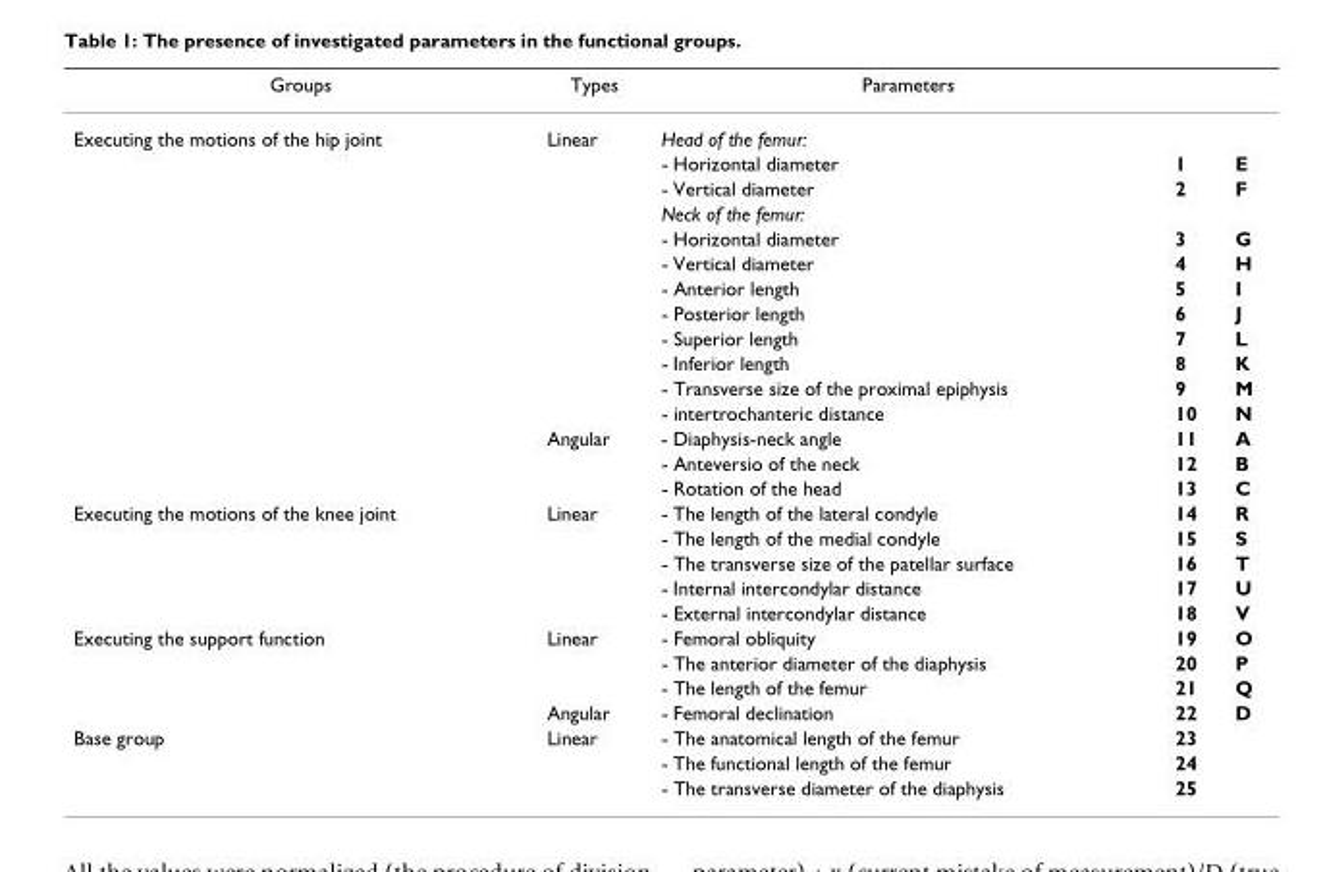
<table><thead><tr><td>Groups</td><td>Types</td><td>Parameters</td><td></td><td></td></tr></thead><tbody><tr><td rowspan="15">Executing the motions of the hip joint</td><td>Linear</td><td>Head of the femur:</td><td></td><td></td></tr><tr><td></td><td>- Horizontal diameter</td><td>1</td><td>E</td></tr><tr><td></td><td>- Vertical diameter</td><td>2</td><td>F</td></tr><tr><td></td><td>Neck of the femur:</td><td></td><td></td></tr><tr><td></td><td>- Horizontal diameter</td><td>3</td><td>G</td></tr><tr><td></td><td>- Vertical diameter</td><td>4</td><td>H</td></tr><tr><td></td><td>- Anterior length</td><td>5</td><td>I</td></tr><tr><td></td><td>- Posterior length</td><td>6</td><td>J</td></tr><tr><td></td><td>- Superior length</td><td>7</td><td>L</td></tr><tr><td></td><td>- Inferior length</td><td>8</td><td>K</td></tr><tr><td></td><td>- Transverse size of the proximal epiphysis</td><td>9</td><td>M</td></tr><tr><td></td><td>- intertrochanteric distance</td><td>10</td><td>N</td></tr><tr><td>Angular</td><td>- Diaphysis-neck angle</td><td>11</td><td>A</td></tr><tr><td></td><td>- Anteversio of the neck</td><td>12</td><td>B</td></tr><tr><td></td><td>- Rotation of the head</td><td>13</td><td>C</td></tr><tr><td rowspan="5">Executing the motions of the knee joint</td><td>Linear</td><td>- The length of the lateral condyle</td><td>14</td><td>R</td></tr><tr><td></td><td>- The length of the medial condyle</td><td>15</td><td>S</td></tr><tr><td></td><td>- The transverse size of the patellar surface</td><td>16</td><td>T</td></tr><tr><td></td><td>- Internal intercondylar distance</td><td>17</td><td>U</td></tr><tr><td></td><td>- External intercondylar distance</td><td>18</td><td>V</td></tr><tr><td rowspan="4">Executing the support function</td><td>Linear</td><td>- Femoral obliquity</td><td>19</td><td>O</td></tr><tr><td></td><td>- The anterior diameter of the diaphysis</td><td>20</td><td>P</td></tr><tr><td></td><td>- The length of the femur</td><td>21</td><td>Q</td></tr><tr><td>Angular</td><td>- Femoral declination</td><td>22</td><td>D</td></tr><tr><td rowspan="3">Base group</td><td>Linear</td><td>- The anatomical length of the femur</td><td>23</td><td></td></tr><tr><td></td><td>- The functional length of the femur</td><td>24</td><td></td></tr><tr><td></td><td>- The transverse diameter of the diaphysis</td><td>25</td><td></td></tr></tbody></table>